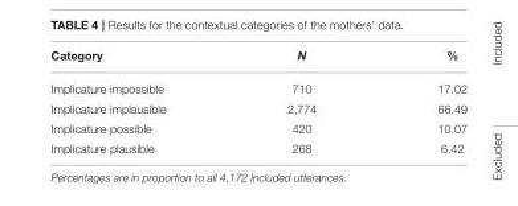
<table><thead><tr><td>Category</td><td>N</td><td>%</td></tr></thead><tbody><tr><td>Implicature impossible</td><td>710</td><td>17.02</td></tr><tr><td>Implicature implausible</td><td>2,774</td><td>66.49</td></tr><tr><td>Implicature possible</td><td>420</td><td>10.07</td></tr><tr><td>Implicature plausible</td><td>268</td><td>6.42</td></tr></tbody></table>